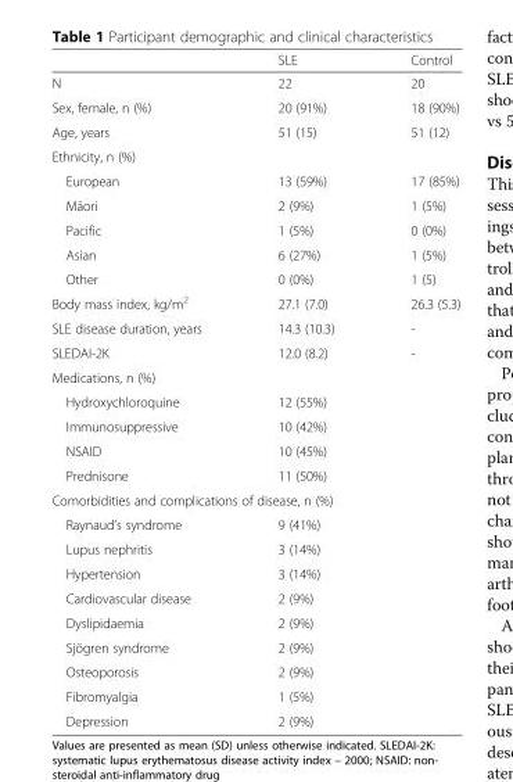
<table><thead><tr><td></td><td>SLE</td><td>Control</td></tr></thead><tbody><tr><td>N</td><td>22</td><td>20</td></tr><tr><td>Sex, female, n (%)</td><td>20 (91%)</td><td>18 (90%)</td></tr><tr><td>Age, years</td><td>51 (15)</td><td>51 (12)</td></tr><tr><td colspan="3">Ethnicity, n (%)</td></tr><tr><td>European</td><td>13 (59%)</td><td>17 (85%)</td></tr><tr><td>Māori</td><td>2 (9%)</td><td>1 (5%)</td></tr><tr><td>Pacific</td><td>1 (5%)</td><td>0 (0%)</td></tr><tr><td>Asian</td><td>6 (27%)</td><td>1 (5%)</td></tr><tr><td>Other</td><td>0 (0%)</td><td>1 (5)</td></tr><tr><td>Body mass index, kg/m<sup>2</sup></td><td>27.1 (7.0)</td><td>26.3 (5.3)</td></tr><tr><td>SLE disease duration, years</td><td>14.3 (10.3)</td><td>-</td></tr><tr><td>SLEDAI-2K</td><td>12.0 (8.2)</td><td>-</td></tr><tr><td colspan="3">Medications, n (%)</td></tr><tr><td>Hydroxychloroquine</td><td>12 (55%)</td><td></td></tr><tr><td>Immunosuppressive</td><td>10 (42%)</td><td></td></tr><tr><td>NSAID</td><td>10 (45%)</td><td></td></tr><tr><td>Prednisone</td><td>11 (50%)</td><td></td></tr><tr><td colspan="3">Comorbidities and complications of disease, n (%)</td></tr><tr><td>Raynaud’s syndrome</td><td>9 (41%)</td><td></td></tr><tr><td>Lupus nephritis</td><td>3 (14%)</td><td></td></tr><tr><td>Hypertension</td><td>3 (14%)</td><td></td></tr><tr><td>Cardiovascular disease</td><td>2 (9%)</td><td></td></tr><tr><td>Dyslipidaemia</td><td>2 (9%)</td><td></td></tr><tr><td>Sjögren syndrome</td><td>2 (9%)</td><td></td></tr><tr><td>Osteoporosis</td><td>2 (9%)</td><td></td></tr><tr><td>Fibromyalgia</td><td>1 (5%)</td><td></td></tr><tr><td>Depression</td><td>2 (9%)</td><td></td></tr></tbody></table>